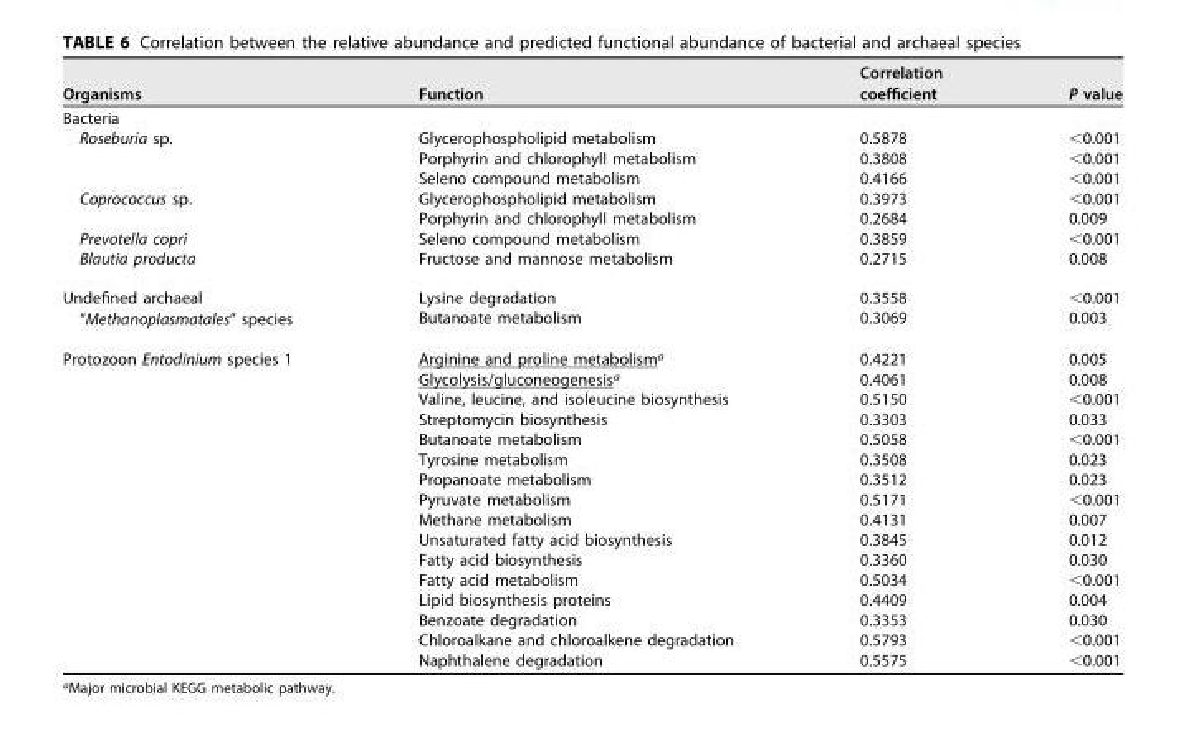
<table><thead><tr><td>Organisms</td><td>Function</td><td>Correlation coefficient</td><td>P value</td></tr></thead><tbody><tr><td colspan="4">Bacteria</td></tr><tr><td rowspan="3">Roseburia sp.</td><td>Glycerophospholipid metabolism</td><td>0.5878</td><td>&lt;0.001</td></tr><tr><td>Porphyrin and chlorophyll metabolism</td><td>0.3808</td><td>&lt;0.001</td></tr><tr><td>Seleno compound metabolism</td><td>0.4166</td><td>&lt;0.001</td></tr><tr><td rowspan="2">Coprococcus sp.</td><td>Glycerophospholipid metabolism</td><td>0.3973</td><td>&lt;0.001</td></tr><tr><td>Porphyrin and chlorophyll metabolism</td><td>0.2684</td><td>0.009</td></tr><tr><td>Prevotella copri</td><td>Seleno compound metabolism</td><td>0.3859</td><td>&lt;0.001</td></tr><tr><td>Blautia producta</td><td>Fructose and mannose metabolism</td><td>0.2715</td><td>0.008</td></tr><tr><td rowspan="2">Undefined archaeal “Methanoplasmatales” species</td><td>Lysine degradation</td><td>0.3558</td><td>&lt;0.001</td></tr><tr><td>Butanoate metabolism</td><td>0.3069</td><td>0.003</td></tr><tr><td rowspan="16">Protozoon Entodinium species 1</td><td>Arginine and proline metabolism<sup>a</sup></td><td>0.4221</td><td>0.005</td></tr><tr><td>Glycolysis/gluconeogenesis<sup>a</sup></td><td>0.4061</td><td>0.008</td></tr><tr><td>Valine, leucine, and isoleucine biosynthesis</td><td>0.5150</td><td>&lt;0.001</td></tr><tr><td>Streptomycin biosynthesis</td><td>0.3303</td><td>0.033</td></tr><tr><td>Butanoate metabolism</td><td>0.5058</td><td>&lt;0.001</td></tr><tr><td>Tyrosine metabolism</td><td>0.3508</td><td>0.023</td></tr><tr><td>Propanoate metabolism</td><td>0.3512</td><td>0.023</td></tr><tr><td>Pyruvate metabolism</td><td>0.5171</td><td>&lt;0.001</td></tr><tr><td>Methane metabolism</td><td>0.4131</td><td>0.007</td></tr><tr><td>Unsaturated fatty acid biosynthesis</td><td>0.3845</td><td>0.012</td></tr><tr><td>Fatty acid biosynthesis</td><td>0.3360</td><td>0.030</td></tr><tr><td>Fatty acid metabolism</td><td>0.5034</td><td>&lt;0.001</td></tr><tr><td>Lipid biosynthesis proteins</td><td>0.4409</td><td>0.004</td></tr><tr><td>Benzoate degradation</td><td>0.3353</td><td>0.030</td></tr><tr><td>Chloroalkane and chloroalkene degradation</td><td>0.5793</td><td>&lt;0.001</td></tr><tr><td>Naphthalene degradation</td><td>0.5575</td><td>&lt;0.001</td></tr></tbody></table>